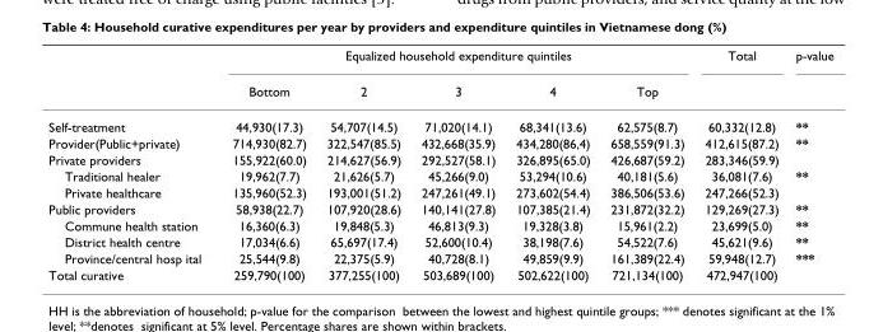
<table><thead><tr><td rowspan="2"></td><td colspan="5">Equalized household expenditure quintiles</td><td rowspan="2">Total</td><td rowspan="2">p-value</td></tr><tr><td>Bottom</td><td>2</td><td>3</td><td>4</td><td>Top</td></tr></thead><tbody><tr><td>Self-treatment</td><td>44,930(17.3)</td><td>54,707(14.5)</td><td>71,020(14.1)</td><td>68,341(13.6)</td><td>62,575(8.7)</td><td>60,332(12.8)</td><td>**</td></tr><tr><td>Provider(Public+private)</td><td>714,930(82.7)</td><td>322,547(85.5)</td><td>432,668(35.9)</td><td>434,280(86,4)</td><td>658,559(91.3)</td><td>412,615(87.2)</td><td>**</td></tr><tr><td>Private providers</td><td>155,922(60.0)</td><td>214,627(56.9)</td><td>292,527(58.1)</td><td>326,895(65.0)</td><td>426,687(59.2)</td><td>283,346(59.9)</td><td></td></tr><tr><td>Traditional healer</td><td>19,962(7.7)</td><td>21,626(5.7)</td><td>45,266(9.0)</td><td>53,294(10.6)</td><td>40,181(5.6)</td><td>36,081(7.6)</td><td>**</td></tr><tr><td>Private healthcare</td><td>135,960(52.3)</td><td>193,001(51.2)</td><td>247,261(49.1)</td><td>273,602(54.4)</td><td>386,506(53.6)</td><td>247,266(52.3)</td><td></td></tr><tr><td>Public providers</td><td>58,938(22.7)</td><td>107,920(28.6)</td><td>140,141(27.8)</td><td>107,385(21.4)</td><td>231,872(32.2)</td><td>129,269(27.3)</td><td>**</td></tr><tr><td>Commune health station</td><td>16,360(6.3)</td><td>19,848(5.3)</td><td>46,813(9.3)</td><td>19,328(3.8)</td><td>15,961(2.2)</td><td>23,699(5.0)</td><td>**</td></tr><tr><td>District health centre</td><td>17,034(6.6)</td><td>65,697(17.4)</td><td>52,600(10.4)</td><td>38,198(7.6)</td><td>54,522(7.6)</td><td>45,621(9.6)</td><td>**</td></tr><tr><td>Province/central hosp ital</td><td>25,544(9.8)</td><td>22,375(5.9)</td><td>40,728(8.1)</td><td>49,859(9.9)</td><td>161,389(22.4)</td><td>59,948(12.7)</td><td>***</td></tr><tr><td>Total curative</td><td>259,790(100)</td><td>377,255(100)</td><td>503,689(100)</td><td>502,622(100)</td><td>721,134(100)</td><td>472,947(100)</td><td></td></tr></tbody></table>